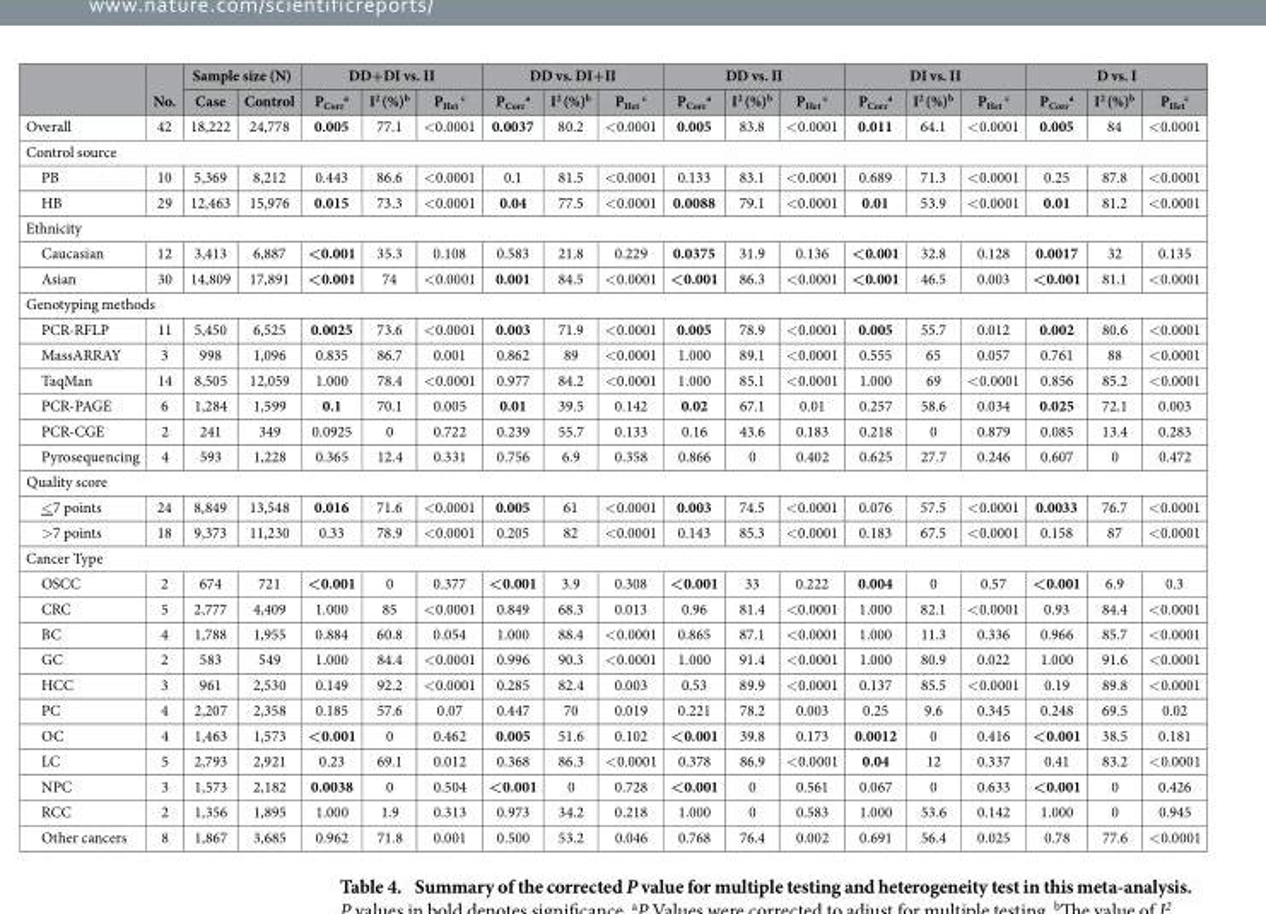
<table><thead><tr><td rowspan="2"></td><td rowspan="2">No.</td><td colspan="2">Sample size (N)</td><td colspan="3">DD+DI vs. II</td><td colspan="3">DD vs. DI+II</td><td colspan="3">DD vs. II</td><td colspan="3">DI vs. II</td><td colspan="3">D vs. I</td></tr><tr><td>Case</td><td>Control</td><td>P<sub>Corr</sub> <sup>a</sup></td><td>I<sup>2</sup> (%)<sup>b</sup></td><td>P<sub>Het</sub> c</td><td>P<sub>Corr</sub> <sup>a</sup></td><td>I<sup>2</sup> (%)<sup>b</sup></td><td>P<sub>Het</sub> c</td><td>P<sub>Corr</sub> <sup>a</sup></td><td>I<sup>2</sup> (%)<sup>b</sup></td><td>P<sub>Het</sub> c</td><td>P<sub>Corr</sub> <sup>a</sup></td><td>I<sup>2</sup> (%)<sup>b</sup></td><td>P<sub>Het</sub> c</td><td>P<sub>Corr</sub> <sup>a</sup></td><td>I<sup>2</sup> (%)<sup>b</sup></td><td>P<sub>Het</sub> <sup>c</sup></td></tr></thead><tbody><tr><td>Overall</td><td>42</td><td>18,222</td><td>24,778</td><td>0.005</td><td>77.1</td><td>&lt; 0.0001</td><td>0.0037</td><td>80.2</td><td>&lt; 0.0001</td><td>0.005</td><td>83.8</td><td>&lt; 0.0001</td><td>0.011</td><td>64.1</td><td>&lt; 0.0001</td><td>0.005</td><td>84</td><td>&lt; 0.0001</td></tr><tr><td colspan="19">Control source</td></tr><tr><td>PB</td><td>10</td><td>5,369</td><td>8,212</td><td>0.443</td><td>86.6</td><td>&lt; 0.0001</td><td>0.1</td><td>81.5</td><td>&lt; 0.0001</td><td>0.133</td><td>83.1</td><td>&lt; 0.0001</td><td>0.689</td><td>71.3</td><td>&lt; 0.0001</td><td>0.25</td><td>87.8</td><td>&lt; 0.0001</td></tr><tr><td>HB</td><td>29</td><td>12,463</td><td>15,976</td><td>0.015</td><td>73.3</td><td>&lt; 0.0001</td><td>0.04</td><td>77.5</td><td>&lt; 0.0001</td><td>0.0088</td><td>79.1</td><td>&lt; 0.0001</td><td>0.01</td><td>53.9</td><td>&lt; 0.0001</td><td>0.01</td><td>81.2</td><td>&lt; 0.0001</td></tr><tr><td colspan="19">Ethnicity</td></tr><tr><td>Caucasian</td><td>12</td><td>3,413</td><td>6,887</td><td>&lt; 0.001</td><td>35.3</td><td>0.108</td><td>0.583</td><td>21.8</td><td>0.229</td><td>0.0375</td><td>31.9</td><td>0.136</td><td>&lt; 0.001</td><td>32.8</td><td>0.128</td><td>0.0017</td><td>32</td><td>0.135</td></tr><tr><td>Asian</td><td>30</td><td>14,809</td><td>17,891</td><td>&lt; 0.001</td><td>74</td><td>&lt; 0.0001</td><td>0.001</td><td>84.5</td><td>&lt; 0.0001</td><td>&lt; 0.001</td><td>86.3</td><td>&lt; 0.0001</td><td>&lt; 0.001</td><td>46.5</td><td>0.003</td><td>&lt; 0.001</td><td>81.1</td><td>&lt; 0.0001</td></tr><tr><td colspan="19">Genotyping methods</td></tr><tr><td>PCR-RFLP</td><td>11</td><td>5,450</td><td>6,525</td><td>0.0025</td><td>73.6</td><td>&lt; 0.0001</td><td>0.003</td><td>71.9</td><td>&lt; 0.0001</td><td>0.005</td><td>78.9</td><td>&lt; 0.0001</td><td>0.005</td><td>55.7</td><td>0.012</td><td>0.002</td><td>80.6</td><td>&lt; 0.0001</td></tr><tr><td>MassARRAY</td><td>3</td><td>998</td><td>1,096</td><td>0.835</td><td>86.7</td><td>0.001</td><td>0.862</td><td>89</td><td>&lt; 0.0001</td><td>1.000</td><td>89.1</td><td>&lt; 0.0001</td><td>0.555</td><td>65</td><td>0.057</td><td>0.761</td><td>88</td><td>&lt; 0.0001</td></tr><tr><td>TaqMan</td><td>14</td><td>8,505</td><td>12,059</td><td>1.000</td><td>78.4</td><td>&lt; 0.0001</td><td>0.977</td><td>84.2</td><td>&lt; 0.0001</td><td>1.000</td><td>85.1</td><td>&lt; 0.0001</td><td>1.000</td><td>69</td><td>&lt; 0.0001</td><td>0.856</td><td>85.2</td><td>&lt; 0.0001</td></tr><tr><td>PCR-PAGE</td><td>6</td><td>1,284</td><td>1,599</td><td>0.1</td><td>70.1</td><td>0.005</td><td>0.01</td><td>39.5</td><td>0.142</td><td>0.02</td><td>67.1</td><td>0.01</td><td>0.257</td><td>58.6</td><td>0.034</td><td>0.025</td><td>72.1</td><td>0.003</td></tr><tr><td>PCR-CGE</td><td>2</td><td>241</td><td>349</td><td>0.0925</td><td>0</td><td>0.722</td><td>0.239</td><td>55.7</td><td>0.133</td><td>0.16</td><td>43.6</td><td>0.183</td><td>0.218</td><td>0</td><td>0.879</td><td>0.085</td><td>13.4</td><td>0.283</td></tr><tr><td>Pyrosequencing</td><td>4</td><td>593</td><td>1,228</td><td>0.365</td><td>12.4</td><td>0.331</td><td>0.756</td><td>6.9</td><td>0.358</td><td>0.866</td><td>0</td><td>0.402</td><td>0.625</td><td>27.7</td><td>0.246</td><td>0.607</td><td>0</td><td>0.472</td></tr><tr><td colspan="19">Quality score</td></tr><tr><td>&lt;7 points</td><td>24</td><td>8,849</td><td>13,548</td><td>0.016</td><td>71.6</td><td>&lt; 0.0001</td><td>0.005</td><td>61</td><td>&lt; 0.0001</td><td>0.003</td><td>74.5</td><td>&lt; 0.0001</td><td>0.076</td><td>57.5</td><td>&lt; 0.0001</td><td>0.0033</td><td>76.7</td><td>&lt; 0.0001</td></tr><tr><td>&gt; 7 points</td><td>18</td><td>9,373</td><td>11,230</td><td>0.33</td><td>78.9</td><td>&lt; 0.0001</td><td>0.205</td><td>82</td><td>&lt; 0.0001</td><td>0.143</td><td>85.3</td><td>&lt; 0.0001</td><td>0.183</td><td>67.5</td><td>&lt; 0.0001</td><td>0.158</td><td>87</td><td>&lt; 0.0001</td></tr><tr><td colspan="19">Cancer Type</td></tr><tr><td>OSCC</td><td>2</td><td>674</td><td>721</td><td>&lt; 0.001</td><td>0</td><td>0.377</td><td>&lt; 0.001</td><td>3.9</td><td>0.308</td><td>&lt; 0.001</td><td>33</td><td>0.222</td><td>0.004</td><td>0</td><td>0.57</td><td>&lt; 0.001</td><td>6.9</td><td>0.3</td></tr><tr><td>CRC</td><td>5</td><td>2,777</td><td>4,409</td><td>1.000</td><td>85</td><td>&lt; 0.0001</td><td>0.849</td><td>68.3</td><td>0.013</td><td>0.96</td><td>81.4</td><td>&lt; 0.0001</td><td>1.000</td><td>82.1</td><td>&lt; 0.0001</td><td>0.93</td><td>84.4</td><td>&lt; 0.0001</td></tr><tr><td>BC</td><td>4</td><td>1,788</td><td>1,955</td><td>0.884</td><td>60.8</td><td>0.054</td><td>1.000</td><td>88.4</td><td>&lt; 0.0001</td><td>0.865</td><td>87.1</td><td>&lt; 0.0001</td><td>1.000</td><td>11.3</td><td>0.336</td><td>0.966</td><td>85.7</td><td>&lt; 0.0001</td></tr><tr><td>GC</td><td>2</td><td>583</td><td>549</td><td>1.000</td><td>84.4</td><td>&lt; 0.0001</td><td>0.996</td><td>90.3</td><td>&lt; 0.0001</td><td>1.000</td><td>91.4</td><td>&lt; 0.0001</td><td>1.000</td><td>80.9</td><td>0.022</td><td>1.000</td><td>91.6</td><td>&lt; 0.0001</td></tr><tr><td>HCC</td><td>3</td><td>961</td><td>2,530</td><td>0.149</td><td>92.2</td><td>&lt; 0.0001</td><td>0.285</td><td>82.4</td><td>0.003</td><td>0.53</td><td>89.9</td><td>&lt; 0.0001</td><td>0.137</td><td>85.5</td><td>&lt; 0.0001</td><td>0.19</td><td>89.8</td><td>&lt; 0.0001</td></tr><tr><td>PC</td><td>4</td><td>2,207</td><td>2,358</td><td>0.185</td><td>57.6</td><td>0.07</td><td>0.447</td><td>70</td><td>0.019</td><td>0.221</td><td>78.2</td><td>0.003</td><td>0.25</td><td>9.6</td><td>0.345</td><td>0.248</td><td>69.5</td><td>0.02</td></tr><tr><td>OC</td><td>4</td><td>1,463</td><td>1,573</td><td>&lt; 0.001</td><td>0</td><td>0.462</td><td>0.005</td><td>51.6</td><td>0.102</td><td>&lt; 0.001</td><td>39.8</td><td>0.173</td><td>0.0012</td><td>0</td><td>0.416</td><td>&lt; 0.001</td><td>38.5</td><td>0.181</td></tr><tr><td>LC</td><td>5</td><td>2,793</td><td>2,921</td><td>0.23</td><td>69.1</td><td>0.012</td><td>0.368</td><td>86.3</td><td>&lt; 0.0001</td><td>0.378</td><td>86.9</td><td>&lt; 0.0001</td><td>0.04</td><td>12</td><td>0.337</td><td>0.41</td><td>83.2</td><td>&lt; 0.0001</td></tr><tr><td>NPC</td><td>3</td><td>1,573</td><td>2,182</td><td>0.0038</td><td>0</td><td>0.504</td><td>&lt; 0.001</td><td>0</td><td>0.728</td><td>&lt; 0.001</td><td>0</td><td>0.561</td><td>0.067</td><td>0</td><td>0.633</td><td>&lt; 0.001</td><td>0</td><td>0.426</td></tr><tr><td>RCC</td><td>2</td><td>1,356</td><td>1,895</td><td>1.000</td><td>1.9</td><td>0.313</td><td>0.973</td><td>34.2</td><td>0.218</td><td>1.000</td><td>0</td><td>0.583</td><td>1.000</td><td>53.6</td><td>0.142</td><td>1.000</td><td>0</td><td>0.945</td></tr><tr><td>Other cancers</td><td>8</td><td>1,867</td><td>3,685</td><td>0.962</td><td>71.8</td><td>0.001</td><td>0.500</td><td>53.2</td><td>0.046</td><td>0.768</td><td>76.4</td><td>0.002</td><td>0.691</td><td>56.4</td><td>0.025</td><td>0.78</td><td>77.6</td><td>&lt; 0.0001</td></tr></tbody></table>